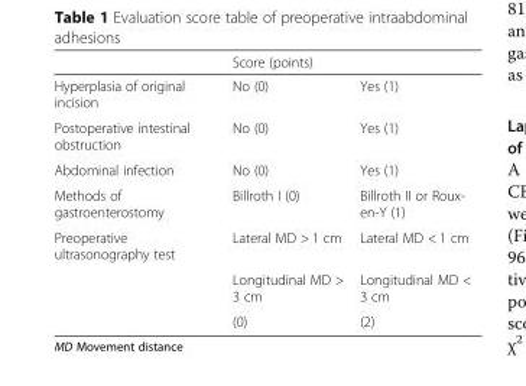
<table><thead><tr><td rowspan="2">Hyperplasia of original incision</td><td colspan="2">Score (points)</td></tr><tr><td>No (0)</td><td>Yes (1)</td></tr></thead><tbody><tr><td>Postoperative intestinal obstruction</td><td>No (0)</td><td>Yes (1)</td></tr><tr><td>Abdominal infection</td><td>No (0)</td><td>Yes (1)</td></tr><tr><td>Methods of gastroenterostomy</td><td>Billroth I (0)</td><td>Billroth II or Roux- en-Y (1)</td></tr><tr><td rowspan="3">Preoperative ultrasonography test</td><td>Lateral MD &gt; 1 cm</td><td>Lateral MD &lt; 1 cm</td></tr><tr><td>Longitudinal MD &gt; 3 cm</td><td>Longitudinal MD &lt; 3 cm</td></tr><tr><td>(0)</td><td>(2)</td></tr></tbody></table>